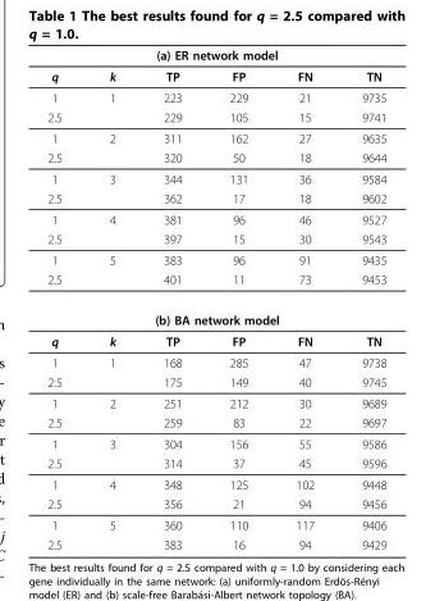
<table><thead><tr><td colspan="6">(a) ER network model</td></tr><tr><td>q</td><td>k</td><td>TP</td><td>FP</td><td>FN</td><td>TN</td></tr></thead><tbody><tr><td>1</td><td>1</td><td>223</td><td>229</td><td>21</td><td>9735</td></tr><tr><td>2.5</td><td></td><td>229</td><td>105</td><td>15</td><td>9741</td></tr><tr><td>1</td><td>2</td><td>311</td><td>162</td><td>27</td><td>9635</td></tr><tr><td>2.5</td><td></td><td>320</td><td>50</td><td>18</td><td>9644</td></tr><tr><td>1</td><td>3</td><td>344</td><td>131</td><td>36</td><td>9584</td></tr><tr><td>2.5</td><td></td><td>362</td><td>17</td><td>18</td><td>9602</td></tr><tr><td>1</td><td>4</td><td>381</td><td>96</td><td>46</td><td>9527</td></tr><tr><td>2.5</td><td></td><td>397</td><td>15</td><td>30</td><td>9543</td></tr><tr><td>1</td><td>5</td><td>383</td><td>96</td><td>91</td><td>9435</td></tr><tr><td>2.5</td><td></td><td>401</td><td>11</td><td>73</td><td>9453</td></tr><tr><td colspan="6">(b) BA network model</td></tr><tr><td>q</td><td>k</td><td>TP</td><td>FP</td><td>FN</td><td>TN</td></tr><tr><td>1</td><td>1</td><td>168</td><td>285</td><td>47</td><td>9738</td></tr><tr><td>2.5</td><td></td><td>175</td><td>149</td><td>40</td><td>9745</td></tr><tr><td>1</td><td>2</td><td>251</td><td>212</td><td>30</td><td>9689</td></tr><tr><td>2.5</td><td></td><td>259</td><td>83</td><td>22</td><td>9697</td></tr><tr><td>1</td><td>3</td><td>304</td><td>156</td><td>55</td><td>9586</td></tr><tr><td>2.5</td><td></td><td>314</td><td>37</td><td>45</td><td>9596</td></tr><tr><td>1</td><td>4</td><td>348</td><td>125</td><td>102</td><td>9448</td></tr><tr><td>2.5</td><td></td><td>356</td><td>21</td><td>94</td><td>9456</td></tr><tr><td>1</td><td>5</td><td>360</td><td>110</td><td>117</td><td>9406</td></tr><tr><td>2.5</td><td></td><td>383</td><td>16</td><td>94</td><td>9429</td></tr></tbody></table>